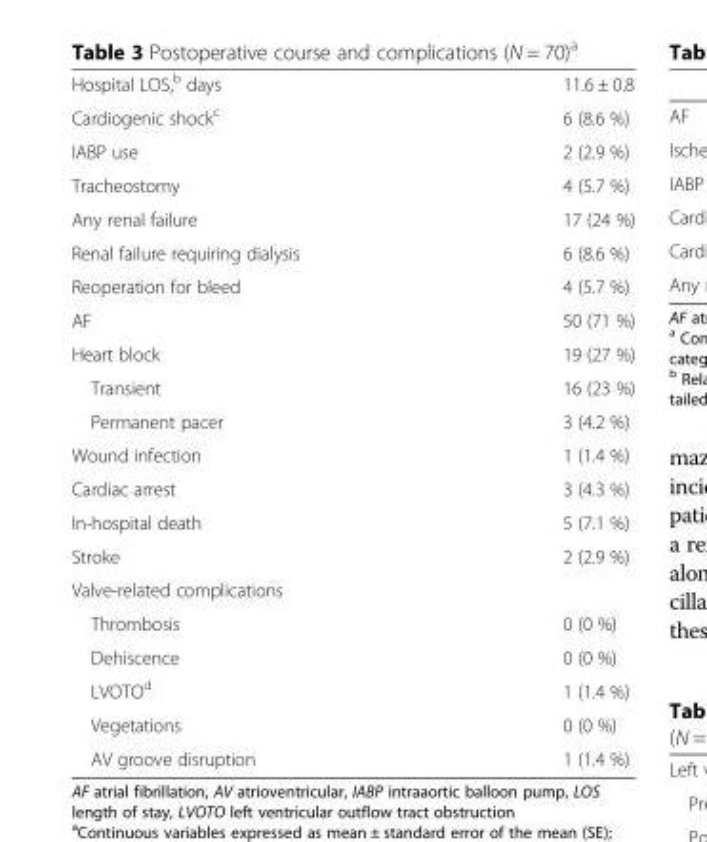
<table><tbody><tr><td>Hospital LOS,<sup>b</sup> days</td><td>11.6 ± 0.8</td></tr><tr><td>Cardiogenic shock<sup>c</sup></td><td>6 (8.6 %)</td></tr><tr><td>IABP use</td><td>2 (2.9 %)</td></tr><tr><td>Tracheostomy</td><td>4 (5.7 %)</td></tr><tr><td>Any renal failure</td><td>17 (24 %)</td></tr><tr><td>Renal failure requiring dialysis</td><td>6 (8.6 %)</td></tr><tr><td>Reoperation for bleed</td><td>4 (5.7 %)</td></tr><tr><td>AF</td><td>50 (71 %)</td></tr><tr><td>Heart block</td><td>19 (27 %)</td></tr><tr><td>Transient</td><td>16 (23 %)</td></tr><tr><td>Permanent pacer</td><td>3 (4.2 %)</td></tr><tr><td>Wound infection</td><td>1 (1.4 %)</td></tr><tr><td>Cardiac arrest</td><td>3 (4.3 %)</td></tr><tr><td>In-hospital death</td><td>5 (7.1 %)</td></tr><tr><td>Stroke</td><td>2 (2.9 %)</td></tr><tr><td colspan="2">Valve-related complications</td></tr><tr><td>Thrombosis</td><td>0 (0 %)</td></tr><tr><td>Dehiscence</td><td>0 (0 %)</td></tr><tr><td>LVOTO<sup>d</sup></td><td>1 (1.4 %)</td></tr><tr><td>Vegetations</td><td>0 (0 %)</td></tr><tr><td>AV groove disruption</td><td>1 (1.4 %)</td></tr></tbody></table>